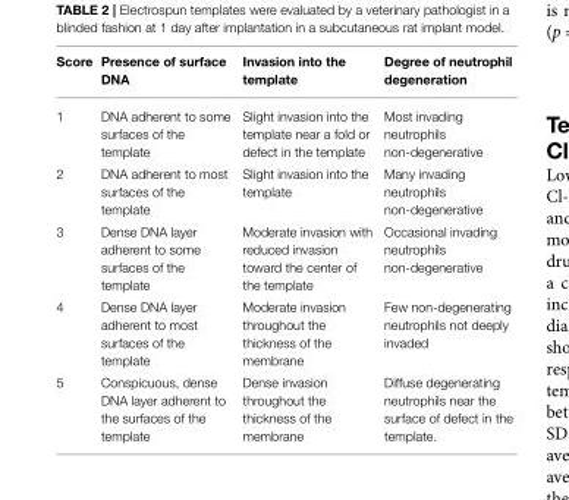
<table><thead><tr><td>Score</td><td>Presence of surface DNA</td><td>Invasion into the template</td><td>Degree of neutrophil degeneration</td></tr></thead><tbody><tr><td>1</td><td>DNA adherent to some surfaces of the template</td><td>Slight invasion into the template near a fold or defect in the template</td><td>Most invading neutrophils non-degenerative</td></tr><tr><td>2</td><td>DNA adherent to most surfaces of the template</td><td>Slight invasion into the template</td><td>Many invading neutrophils non-degenerative</td></tr><tr><td>3</td><td>Dense DNA layer adherent to some surfaces of the template</td><td>Moderate invasion with reduced invasion toward the center of the template</td><td>Occasional invading neutrophils non-degenerative</td></tr><tr><td>4</td><td>Dense DNA layer adherent to most surfaces of the template</td><td>Moderate invasion throughout the thickness of the membrane</td><td>Few non-degenerating neutrophils not deeply invaded</td></tr><tr><td>5</td><td>Conspicuous, dense DNA layer adherent to the surfaces of the template</td><td>Dense invasion throughout the thickness of the membrane</td><td>Diffuse degenerating neutrophils near the surface of defect in the template.</td></tr></tbody></table>